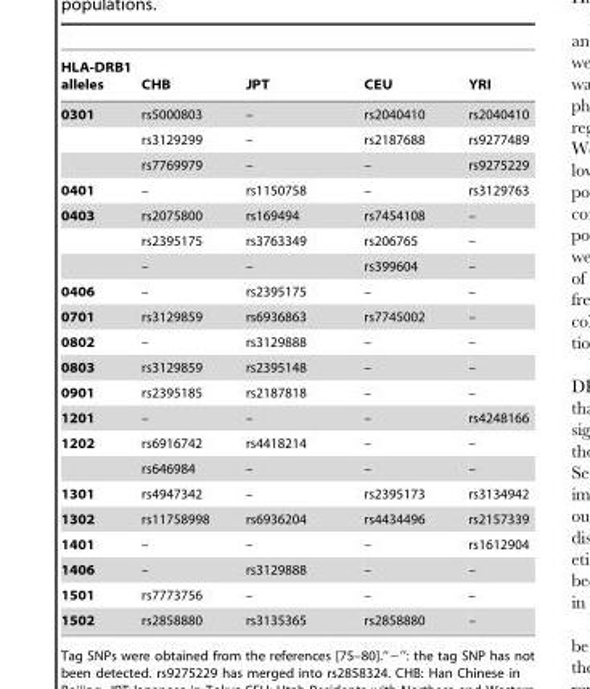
<table><thead><tr><td>HLA-DRB1 alleles</td><td>CHB</td><td>JPT</td><td>CEU</td><td>YRI</td></tr></thead><tbody><tr><td rowspan="3">0301</td><td>rs5000803</td><td>–</td><td>rs2040410</td><td>rs2040410</td></tr><tr><td>rs3129299</td><td>–</td><td>rs2187688</td><td>rs9277489</td></tr><tr><td>rs7769979</td><td>–</td><td>–</td><td>rs9275229</td></tr><tr><td>0401</td><td>–</td><td>rs1150758</td><td>–</td><td>rs3129763</td></tr><tr><td rowspan="3">0403</td><td>rs2075800</td><td>rs169494</td><td>rs7454108</td><td>–</td></tr><tr><td>rs2395175</td><td>rs3763349</td><td>rs206765</td><td>–</td></tr><tr><td>–</td><td>–</td><td>rs399604</td><td>–</td></tr><tr><td>0406</td><td>–</td><td>rs2395175</td><td>–</td><td>–</td></tr><tr><td>0701</td><td>rs3129859</td><td>rs6936863</td><td>rs7745002</td><td>–</td></tr><tr><td>0802</td><td>–</td><td>rs3129888</td><td>–</td><td>–</td></tr><tr><td>0803</td><td>rs3129859</td><td>rs2395148</td><td>–</td><td>–</td></tr><tr><td>0901</td><td>rs2395185</td><td>rs2187818</td><td>–</td><td>–</td></tr><tr><td>1201</td><td>–</td><td>–</td><td>–</td><td>rs4248166</td></tr><tr><td rowspan="2">1202</td><td>rs6916742</td><td>rs4418214</td><td>–</td><td>–</td></tr><tr><td>rs646984</td><td>–</td><td>–</td><td>–</td></tr><tr><td>1301</td><td>rs4947342</td><td>–</td><td>rs2395173</td><td>rs3134942</td></tr><tr><td>1302</td><td>rs11758998</td><td>rs6936204</td><td>rs4434496</td><td>rs2157339</td></tr><tr><td>1401</td><td>–</td><td>–</td><td>–</td><td>rs1612904</td></tr><tr><td>1406</td><td>–</td><td>rs3129888</td><td>–</td><td>–</td></tr><tr><td>1501</td><td>rs7773756</td><td>–</td><td>–</td><td>–</td></tr><tr><td>1502</td><td>rs2858880</td><td>rs3135365</td><td>rs2858880</td><td>–</td></tr></tbody></table>